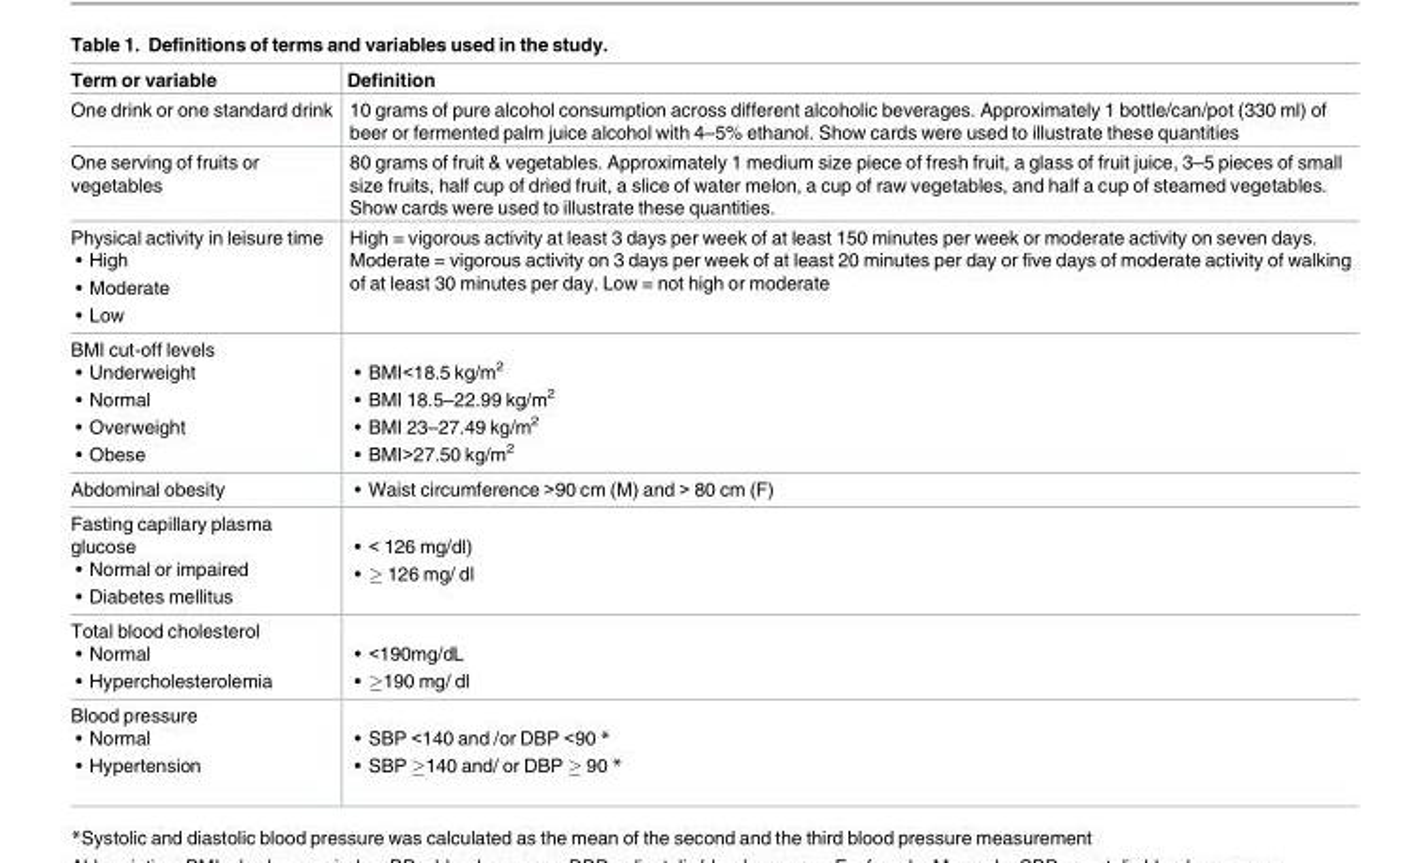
<table><thead><tr><td>Term or variable</td><td>Definition</td></tr></thead><tbody><tr><td>One drink or one standard drink</td><td>10 grams of pure alcohol consumption across different alcoholic beverages. Approximately 1 bottle/can/pot (330 ml) of beer or fermented palm juice alcohol with 4–5% ethanol. Show cards were used to illustrate these quantities</td></tr><tr><td>One serving of fruits or vegetables</td><td>80 grams of fruit &amp; vegetables. Approximately 1 medium size piece of fresh fruit, a glass of fruit juice, 3–5 pieces of small size fruits, half cup of dried fruit, a slice of water melon, a cup of raw vegetables, and half a cup of steamed vegetables. Show cards were used to illustrate these quantities.</td></tr><tr><td>Physical activity in leisure time • High • Moderate • Low</td><td>High = vigorous activity at least 3 days per week of at least 150 minutes per week or moderate activity on seven days. Moderate = vigorous activity on 3 days per week of at least 20 minutes per day or five days of moderate activity of walking of at least 30 minutes per day. Low = not high or moderate</td></tr><tr><td>BMI cut-off levels • Underweight • Normal • Overweight • Obese</td><td>• BMI&lt;18.5 kg/m2 • BMI 18.5–22.99 kg/m2 • BMI 23–27.49 kg/m2 • BMI&gt;27.50 kg/m2</td></tr><tr><td>Abdominal obesity</td><td>• Waist circumference &gt;90 cm (M) and &gt; 80 cm (F)</td></tr><tr><td>Fasting capillary plasma glucose • Normal or impaired • Diabetes mellitus</td><td>• &lt; 126 mg/dl) • � 126 mg/ dl</td></tr><tr><td>Total blood cholesterol • Normal • Hypercholesterolemia</td><td>• &lt;190mg/dL • �190 mg/ dl</td></tr><tr><td>Blood pressure • Normal • Hypertension</td><td>• SBP &lt;140 and /or DBP &lt;90 * • SBP �140 and/ or DBP � 90 *</td></tr></tbody></table>